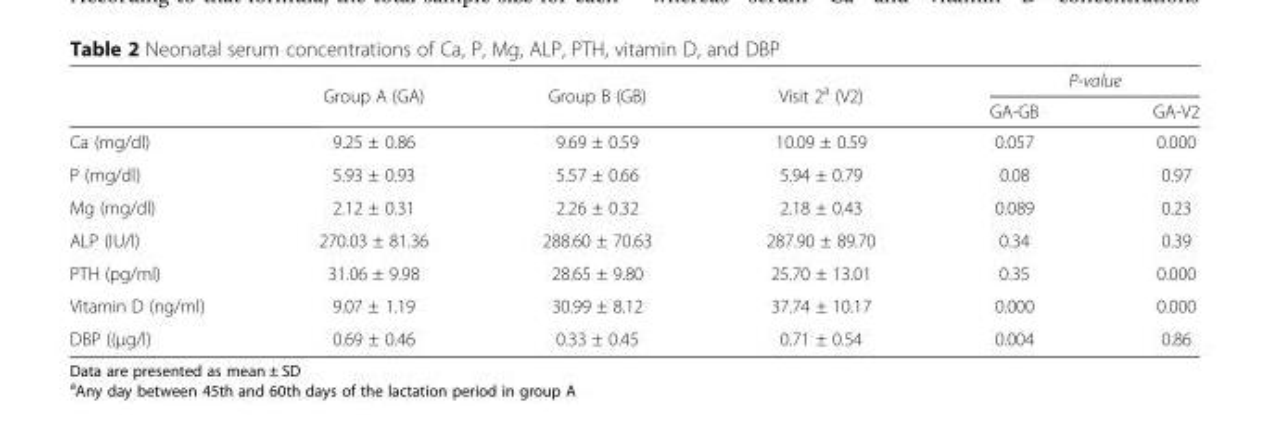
<table><thead><tr><td rowspan="2"></td><td rowspan="2">Group A (GA)</td><td rowspan="2">Group B (GB)</td><td rowspan="2">Visit 2<sup>a</sup> (V2)</td><td colspan="2">P-value</td></tr><tr><td>GA-GB</td><td>GA-V2</td></tr></thead><tbody><tr><td>Ca (mg/dl)</td><td>9.25 ± 0.86</td><td>9.69 ± 0.59</td><td>10.09 ± 0.59</td><td>0.057</td><td>0.000</td></tr><tr><td>P (mg/dl)</td><td>5.93 ± 0.93</td><td>5.57 ± 0.66</td><td>5.94 ± 0.79</td><td>0.08</td><td>0.97</td></tr><tr><td>Mg (mg/dl)</td><td>2.12 ± 0.31</td><td>2.26 ± 0.32</td><td>2.18 ± 0.43</td><td>0.089</td><td>0.23</td></tr><tr><td>ALP (IU/l)</td><td>270.03 ± 81.36</td><td>288.60 ± 70.63</td><td>287.90 ± 89.70</td><td>0.34</td><td>0.39</td></tr><tr><td>PTH (pg/ml)</td><td>31.06 ± 9.98</td><td>28.65 ± 9.80</td><td>25.70 ± 13.01</td><td>0.35</td><td>0.000</td></tr><tr><td>Vitamin D (ng/ml)</td><td>9.07 ± 1.19</td><td>30.99 ± 8.12</td><td>37.74 ± 10.17</td><td>0.000</td><td>0.000</td></tr><tr><td>DBP ((μg/l)</td><td>0.69 ± 0.46</td><td>0.33 ± 0.45</td><td>0.71 ± 0.54</td><td>0.004</td><td>0.86</td></tr></tbody></table>